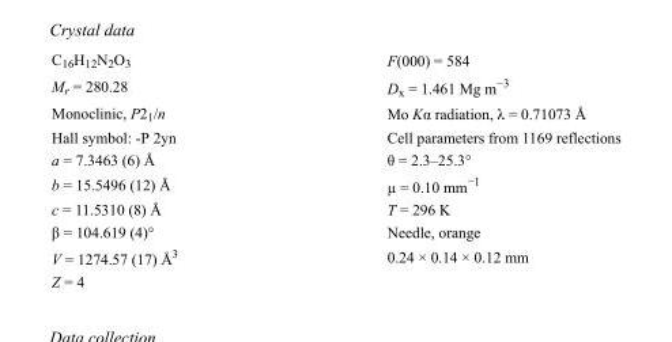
<table><tbody><tr><td>C<sub>16</sub>H<sub>12</sub>N<sub>2</sub>O<sub>3</sub></td><td>F(000) = 584</td></tr><tr><td>M<sub>r</sub> = 280.28</td><td>D<sub>x</sub> = 1.461 Mg m<sup>−3</sup></td></tr><tr><td>Monoclinic, P2<sub>1</sub>/n</td><td>Mo Kα radiation, λ = 0.71073 Å</td></tr><tr><td>Hall symbol: -P 2yn</td><td>Cell parameters from 1169 reflections</td></tr><tr><td>a = 7.3463 (6) Å</td><td>θ = 2.3–25.3°</td></tr><tr><td>b = 15.5496 (12) Å</td><td>µ = 0.10 mm<sup>−1</sup></td></tr><tr><td>c = 11.5310 (8) Å</td><td>T = 296 K</td></tr><tr><td>β = 104.619 (4)°</td><td>Needle, orange</td></tr><tr><td>V = 1274.57 (17) Å<sup>3</sup></td><td>0.24 × 0.14 × 0.12 mm</td></tr><tr><td>Z = 4</td><td></td></tr></tbody></table>